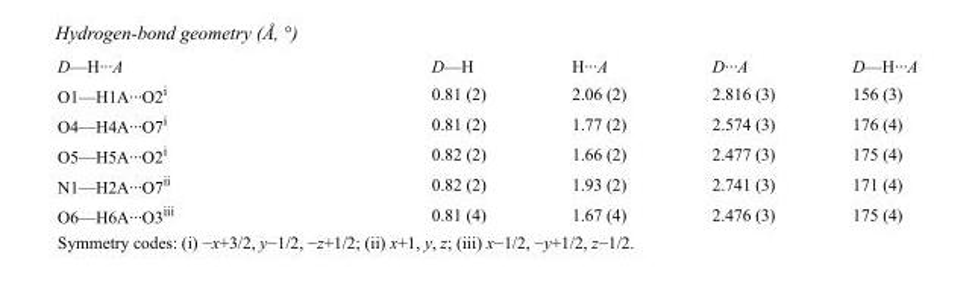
<table><tbody><tr><td>D—H···A</td><td>D—H</td><td>H···A</td><td>D···A</td><td>D—H···A</td></tr><tr><td>O1—H1A···O2<sup>i</sup></td><td>0.81 (2)</td><td>2.06 (2)</td><td>2.816 (3)</td><td>156 (3)</td></tr><tr><td>O4—H4A···O7<sup>i</sup></td><td>0.81 (2)</td><td>1.77 (2)</td><td>2.574 (3)</td><td>176 (4)</td></tr><tr><td>O5—H5A···O2<sup>i</sup></td><td>0.82 (2)</td><td>1.66 (2)</td><td>2.477 (3)</td><td>175 (4)</td></tr><tr><td>N1—H2A···O7<sup>ii</sup></td><td>0.82 (2)</td><td>1.93 (2)</td><td>2.741 (3)</td><td>171 (4)</td></tr><tr><td>O6—H6A···O3<sup>iii</sup></td><td>0.81 (4)</td><td>1.67 (4)</td><td>2.476 (3)</td><td>175 (4)</td></tr></tbody></table>